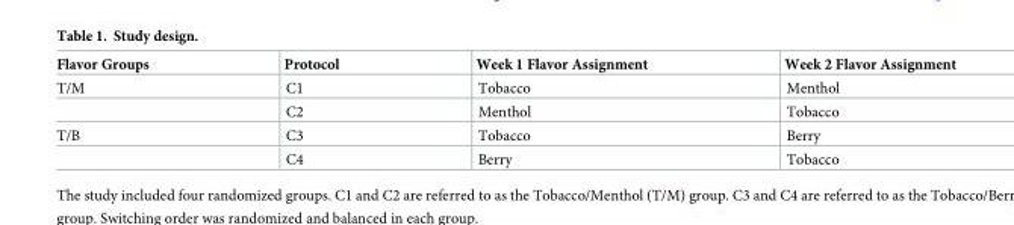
<table><thead><tr><td>Flavor Groups</td><td>Protocol</td><td>Week 1 Flavor Assignment</td><td>Week 2 Flavor Assignment</td></tr></thead><tbody><tr><td rowspan="2">T/M</td><td>C1</td><td>Tobacco</td><td>Menthol</td></tr><tr><td>C2</td><td>Menthol</td><td>Tobacco</td></tr><tr><td rowspan="2">T/B</td><td>C3</td><td>Tobacco</td><td>Berry</td></tr><tr><td>C4</td><td>Berry</td><td>Tobacco</td></tr></tbody></table>